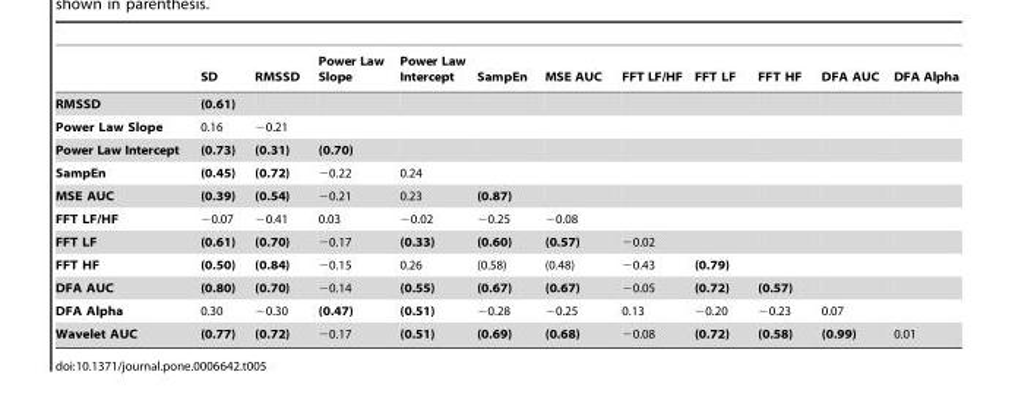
<table><thead><tr><td></td><td>SD</td><td>RMSSD</td><td>Power Law Slope</td><td>Power Law Intercept</td><td>SampEn</td><td>MSE AUC</td><td>FFT LF/HF</td><td>FFT LF</td><td>FFT HF</td><td>DFA AUC</td><td>DFA Alpha</td></tr></thead><tbody><tr><td>RMSSD</td><td>(0.61)</td><td></td><td></td><td></td><td></td><td></td><td></td><td></td><td></td><td></td><td></td></tr><tr><td>Power Law Slope</td><td>0.16</td><td>−0.21</td><td></td><td></td><td></td><td></td><td></td><td></td><td></td><td></td><td></td></tr><tr><td>Power Law Intercept</td><td>(0.73)</td><td>(0.31)</td><td>(0.70)</td><td></td><td></td><td></td><td></td><td></td><td></td><td></td><td></td></tr><tr><td>SampEn</td><td>(0.45)</td><td>(0.72)</td><td>−0.22</td><td>0.24</td><td></td><td></td><td></td><td></td><td></td><td></td><td></td></tr><tr><td>MSE AUC</td><td>(0.39)</td><td>(0.54)</td><td>−0.21</td><td>0.23</td><td>(0.87)</td><td></td><td></td><td></td><td></td><td></td><td></td></tr><tr><td>FFT LF/HF</td><td>−0.07</td><td>−0.41</td><td>0.03</td><td>−0.02</td><td>−0.25</td><td>−0.08</td><td></td><td></td><td></td><td></td><td></td></tr><tr><td>FFT LF</td><td>(0.61)</td><td>(0.70)</td><td>−0.17</td><td>(0.33)</td><td>(0.60)</td><td>(0.57)</td><td>−0.02</td><td></td><td></td><td></td><td></td></tr><tr><td>FFT HF</td><td>(0.50)</td><td>(0.84)</td><td>−0.15</td><td>0.26</td><td>(0.58)</td><td>(0.48)</td><td>−0.43</td><td>(0.79)</td><td></td><td></td><td></td></tr><tr><td>DFA AUC</td><td>(0.80)</td><td>(0.70)</td><td>−0.14</td><td>(0.55)</td><td>(0.67)</td><td>(0.67)</td><td>−0.05</td><td>(0.72)</td><td>(0.57)</td><td></td><td></td></tr><tr><td>DFA Alpha</td><td>0.30</td><td>−0.30</td><td>(0.47)</td><td>(0.51)</td><td>−0.28</td><td>−0.25</td><td>0.13</td><td>−0.20</td><td>−0.23</td><td>0.07</td><td></td></tr><tr><td>Wavelet AUC</td><td>(0.77)</td><td>(0.72)</td><td>−0.17</td><td>(0.51)</td><td>(0.69)</td><td>(0.68)</td><td>−0.08</td><td>(0.72)</td><td>(0.58)</td><td>(0.99)</td><td>0.01</td></tr></tbody></table>